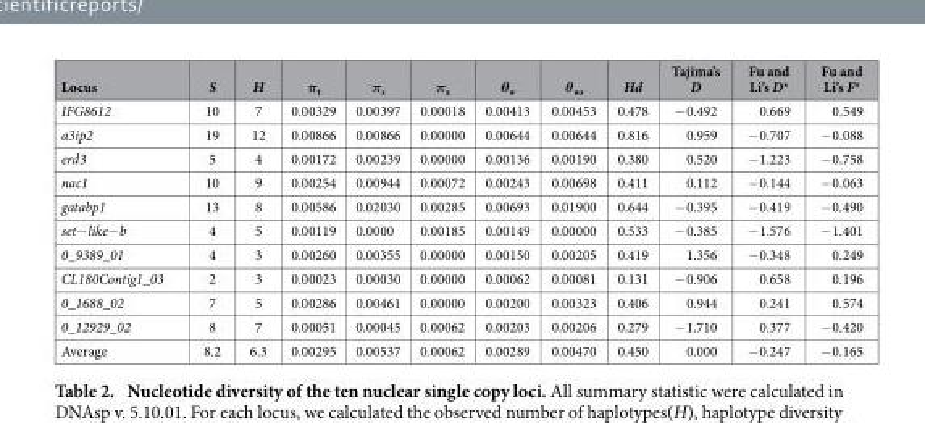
<table><thead><tr><td>Locus</td><td>S</td><td>H</td><td>π<sub>t</sub></td><td>π<sub>s</sub></td><td>π<sub>a</sub></td><td>θ<sub>w</sub></td><td>θ<sub>ws</sub></td><td>Hd</td><td>Tajima’s D</td><td>Fu and Li’s D*</td><td>Fu and Li’s F*</td></tr></thead><tbody><tr><td>IFG8612</td><td>10</td><td>7</td><td>0.00329</td><td>0.00397</td><td>0.00018</td><td>0.00413</td><td>0.00453</td><td>0.478</td><td>− 0.492</td><td>0.669</td><td>0.549</td></tr><tr><td>a3ip2</td><td>19</td><td>12</td><td>0.00866</td><td>0.00866</td><td>0.00000</td><td>0.00644</td><td>0.00644</td><td>0.816</td><td>0.959</td><td>− 0.707</td><td>− 0.088</td></tr><tr><td>erd3</td><td>5</td><td>4</td><td>0.00172</td><td>0.00239</td><td>0.00000</td><td>0.00136</td><td>0.00190</td><td>0.380</td><td>0.520</td><td>− 1.223</td><td>− 0.758</td></tr><tr><td>nac1</td><td>10</td><td>9</td><td>0.00254</td><td>0.00944</td><td>0.00072</td><td>0.00243</td><td>0.00698</td><td>0.411</td><td>0.112</td><td>− 0.144</td><td>− 0.063</td></tr><tr><td>gatabp1</td><td>13</td><td>8</td><td>0.00586</td><td>0.02030</td><td>0.00285</td><td>0.00693</td><td>0.01900</td><td>0.644</td><td>− 0.395</td><td>− 0.419</td><td>− 0.490</td></tr><tr><td>set− like− b</td><td>4</td><td>5</td><td>0.00119</td><td>0.0000</td><td>0.00185</td><td>0.00149</td><td>0.00000</td><td>0.533</td><td>− 0.385</td><td>− 1.576</td><td>− 1.401</td></tr><tr><td>0_9389_01</td><td>4</td><td>3</td><td>0.00260</td><td>0.00355</td><td>0.00000</td><td>0.00150</td><td>0.00205</td><td>0.419</td><td>1.356</td><td>− 0.348</td><td>0.249</td></tr><tr><td>CL180Contig1_03</td><td>2</td><td>3</td><td>0.00023</td><td>0.00030</td><td>0.00000</td><td>0.00062</td><td>0.00081</td><td>0.131</td><td>− 0.906</td><td>0.658</td><td>0.196</td></tr><tr><td>0_1688_02</td><td>7</td><td>5</td><td>0.00286</td><td>0.00461</td><td>0.00000</td><td>0.00200</td><td>0.00323</td><td>0.406</td><td>0.944</td><td>0.241</td><td>0.574</td></tr><tr><td>0_12929_02</td><td>8</td><td>7</td><td>0.00051</td><td>0.00045</td><td>0.00062</td><td>0.00203</td><td>0.00206</td><td>0.279</td><td>− 1.710</td><td>0.377</td><td>− 0.420</td></tr><tr><td>Average</td><td>8.2</td><td>6.3</td><td>0.00295</td><td>0.00537</td><td>0.00062</td><td>0.00289</td><td>0.00470</td><td>0.450</td><td>0.000</td><td>− 0.247</td><td>− 0.165</td></tr></tbody></table>